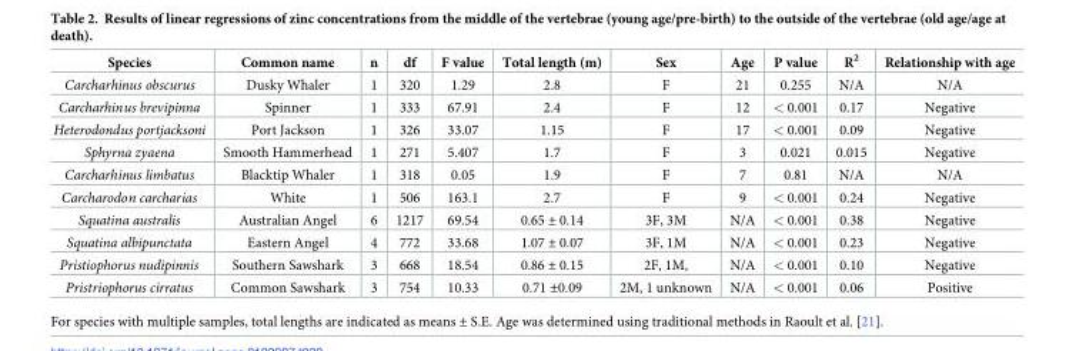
<table><thead><tr><td>Species</td><td>Common name</td><td>n</td><td>df</td><td>F value</td><td>Total length (m)</td><td>Sex</td><td>Age</td><td>P value</td><td>R<sup>2</sup></td><td>Relationship with age</td></tr></thead><tbody><tr><td>Carcharhinus obscurus</td><td>Dusky Whaler</td><td>1</td><td>320</td><td>1.29</td><td>2.8</td><td>F</td><td>21</td><td>0.255</td><td>N/A</td><td>N/A</td></tr><tr><td>Carcharhinus brevipinna</td><td>Spinner</td><td>1</td><td>333</td><td>67.91</td><td>2.4</td><td>F</td><td>12</td><td>&lt; 0.001</td><td>0.17</td><td>Negative</td></tr><tr><td>Heterodondus portjacksoni</td><td>Port Jackson</td><td>1</td><td>326</td><td>33.07</td><td>1.15</td><td>F</td><td>17</td><td>&lt; 0.001</td><td>0.09</td><td>Negative</td></tr><tr><td>Sphyrna zyaena</td><td>Smooth Hammerhead</td><td>1</td><td>271</td><td>5.407</td><td>1.7</td><td>F</td><td>3</td><td>0.021</td><td>0.015</td><td>Negative</td></tr><tr><td>Carcharhinus limbatus</td><td>Blacktip Whaler</td><td>1</td><td>318</td><td>0.05</td><td>1.9</td><td>F</td><td>7</td><td>0.81</td><td>N/A</td><td>N/A</td></tr><tr><td>Carcharodon carcharias</td><td>White</td><td>1</td><td>506</td><td>163.1</td><td>2.7</td><td>F</td><td>9</td><td>&lt; 0.001</td><td>0.24</td><td>Negative</td></tr><tr><td>Squatina australis</td><td>Australian Angel</td><td>6</td><td>1217</td><td>69.54</td><td>0.65 ± 0.14</td><td>3F, 3M</td><td>N/A</td><td>&lt; 0.001</td><td>0.38</td><td>Negative</td></tr><tr><td>Squatina albipunctata</td><td>Eastern Angel</td><td>4</td><td>772</td><td>33.68</td><td>1.07 ± 0.07</td><td>3F, 1M</td><td>N/A</td><td>&lt; 0.001</td><td>0.23</td><td>Negative</td></tr><tr><td>Pristiophorus nudipinnis</td><td>Southern Sawshark</td><td>3</td><td>668</td><td>18.54</td><td>0.86 ± 0.15</td><td>2F, 1M,</td><td>N/A</td><td>&lt; 0.001</td><td>0.10</td><td>Negative</td></tr><tr><td>Pristriophorus cirratus</td><td>Common Sawshark</td><td>3</td><td>754</td><td>10.33</td><td>0.71 ±0.09</td><td>2M, 1 unknown</td><td>N/A</td><td>&lt; 0.001</td><td>0.06</td><td>Positive</td></tr></tbody></table>